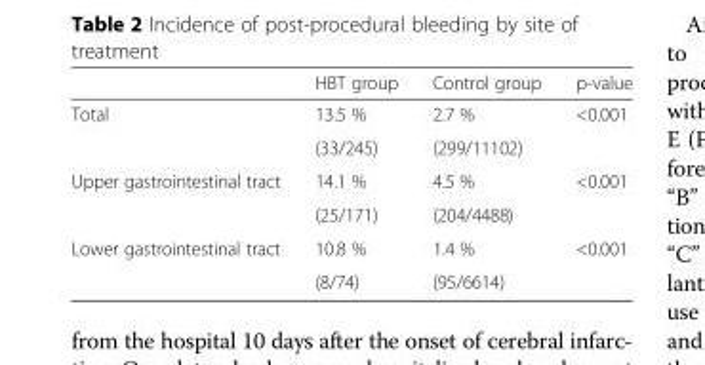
<table><thead><tr><td></td><td>HBT group</td><td>Control group</td><td>p-value</td></tr></thead><tbody><tr><td rowspan="2">Total</td><td>13.5 %</td><td>2.7 %</td><td rowspan="2">&lt;0.001</td></tr><tr><td>(33/245)</td><td>(299/11102)</td></tr><tr><td rowspan="2">Upper gastrointestinal tract</td><td>14.1 %</td><td>4.5 %</td><td rowspan="2">&lt;0.001</td></tr><tr><td>(25/171)</td><td>(204/4488)</td></tr><tr><td rowspan="2">Lower gastrointestinal tract</td><td>10.8 %</td><td>1.4 %</td><td rowspan="2">&lt;0.001</td></tr><tr><td>(8/74)</td><td>(95/6614)</td></tr></tbody></table>